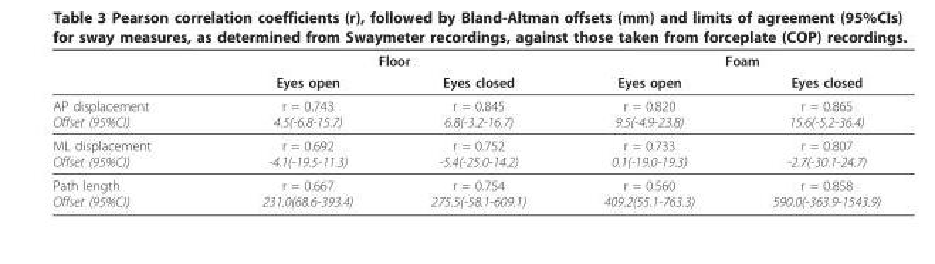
<table><thead><tr><td rowspan="2"></td><td colspan="2">Floor</td><td colspan="2">Foam</td></tr><tr><td>Eyes open</td><td>Eyes closed</td><td>Eyes open</td><td>Eyes closed</td></tr></thead><tbody><tr><td>AP displacement Offset (95%CI)</td><td>r = 0.743 4.5(-6.8-15.7)</td><td>r = 0.845 6.8(-3.2-16.7)</td><td>r = 0.820 9.5(-4.9-23.8)</td><td>r = 0.865 15.6(-5.2-36.4)</td></tr><tr><td>ML displacement Offset (95%CI)</td><td>r = 0.692 -4.1(-19.5-11.3)</td><td>r = 0.752 -5.4(-25.0-14.2)</td><td>r = 0.733 0.1(-19.0-19.3)</td><td>r = 0.807 -2.7(-30.1-24.7)</td></tr><tr><td>Path length Offset (95%CI)</td><td>r = 0.667 231.0(68.6-393.4)</td><td>r = 0.754 275.5(-58.1-609.1)</td><td>r = 0.560 409.2(55.1-763.3)</td><td>r = 0.858 590.0(-363.9-1543.9)</td></tr></tbody></table>